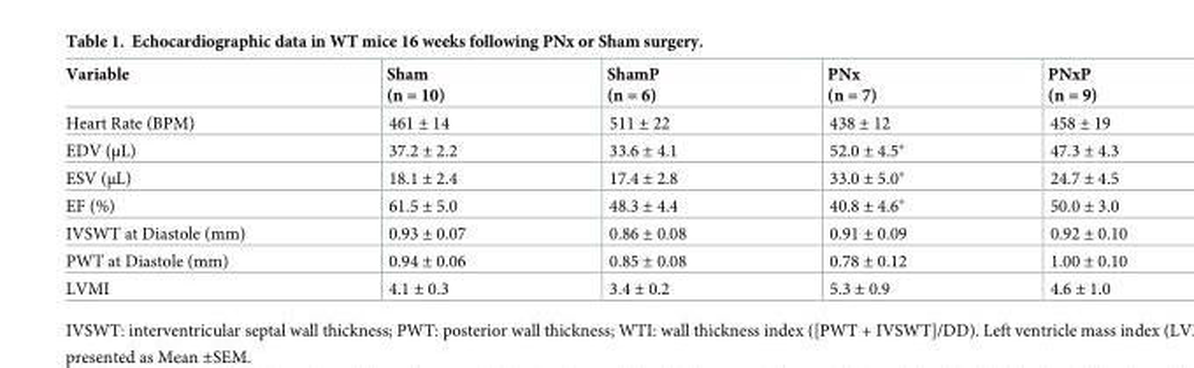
<table><thead><tr><td>Variable</td><td>Sham (n = 10)</td><td>ShamP (n = 6)</td><td>PNx (n = 7)</td><td>PNxP (n = 9)</td></tr></thead><tbody><tr><td>Heart Rate (BPM)</td><td>461 ± 14</td><td>511 ± 22</td><td>438 ± 12</td><td>458 ± 19</td></tr><tr><td>EDV (μL)</td><td>37.2 ± 2.2</td><td>33.6 ± 4.1</td><td>52.0 ± 4.5*</td><td>47.3 ± 4.3</td></tr><tr><td>ESV (μL)</td><td>18.1 ± 2.4</td><td>17.4 ± 2.8</td><td>33.0 ± 5.0*</td><td>24.7 ± 4.5</td></tr><tr><td>EF (%)</td><td>61.5 ± 5.0</td><td>48.3 ± 4.4</td><td>40.8 ± 4.6*</td><td>50.0 ± 3.0</td></tr><tr><td>IVSWT at Diastole (mm)</td><td>0.93 ± 0.07</td><td>0.86 ± 0.08</td><td>0.91 ± 0.09</td><td>0.92 ± 0.10</td></tr><tr><td>PWT at Diastole (mm)</td><td>0.94 ± 0.06</td><td>0.85 ± 0.08</td><td>0.78 ± 0.12</td><td>1.00 ± 0.10</td></tr><tr><td>LVMI</td><td>4.1 ± 0.3</td><td>3.4 ± 0.2</td><td>5.3 ± 0.9</td><td>4.6 ± 1.0</td></tr></tbody></table>